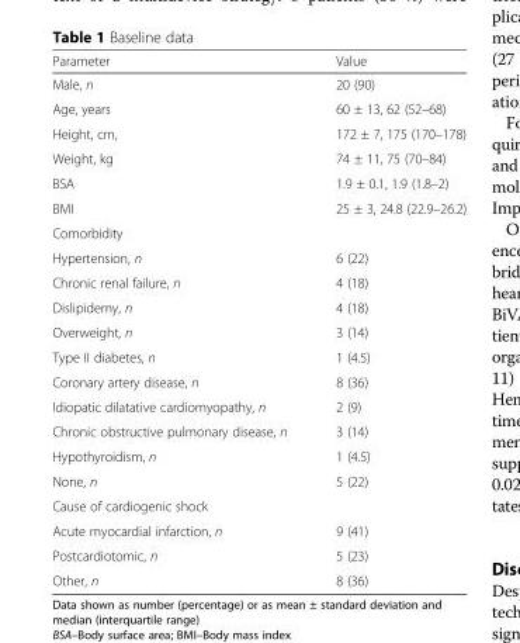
<table><thead><tr><td>Parameter</td><td>Value</td></tr></thead><tbody><tr><td>Male, n</td><td>20 (90)</td></tr><tr><td>Age, years</td><td>60 ± 13, 62 (52–68)</td></tr><tr><td>Height, cm,</td><td>172 ± 7, 175 (170–178)</td></tr><tr><td>Weight, kg</td><td>74 ± 11, 75 (70–84)</td></tr><tr><td>BSA</td><td>1.9 ± 0.1, 1.9 (1.8–2)</td></tr><tr><td>BMI</td><td>25 ± 3, 24.8 (22.9–26.2)</td></tr><tr><td colspan="2">Comorbidity</td></tr><tr><td>Hypertension, n</td><td>6 (22)</td></tr><tr><td>Chronic renal failure, n</td><td>4 (18)</td></tr><tr><td>Dislipidemy, n</td><td>4 (18)</td></tr><tr><td>Overweight, n</td><td>3 (14)</td></tr><tr><td>Type II diabetes, n</td><td>1 (4.5)</td></tr><tr><td>Coronary artery disease, n</td><td>8 (36)</td></tr><tr><td>Idiopatic dilatative cardiomyopathy, n</td><td>2 (9)</td></tr><tr><td>Chronic obstructive pulmonary disease, n</td><td>3 (14)</td></tr><tr><td>Hypothyroidism, n</td><td>1 (4.5)</td></tr><tr><td>None, n</td><td>5 (22)</td></tr><tr><td colspan="2">Cause of cardiogenic shock</td></tr><tr><td>Acute myocardial infarction, n</td><td>9 (41)</td></tr><tr><td>Postcardiotomic, n</td><td>5 (23)</td></tr><tr><td>Other, n</td><td>8 (36)</td></tr></tbody></table>